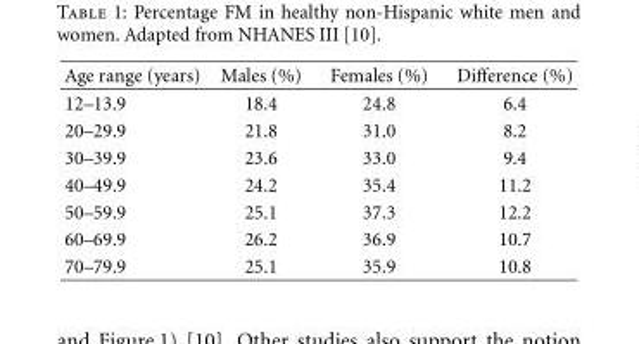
<table><thead><tr><td>Age range (years)</td><td>Males (%)</td><td>Females (%)</td><td>Difference (%)</td></tr></thead><tbody><tr><td>12–13.9</td><td>18.4</td><td>24.8</td><td>6.4</td></tr><tr><td>20–29.9</td><td>21.8</td><td>31.0</td><td>8.2</td></tr><tr><td>30–39.9</td><td>23.6</td><td>33.0</td><td>9.4</td></tr><tr><td>40–49.9</td><td>24.2</td><td>35.4</td><td>11.2</td></tr><tr><td>50–59.9</td><td>25.1</td><td>37.3</td><td>12.2</td></tr><tr><td>60–69.9</td><td>26.2</td><td>36.9</td><td>10.7</td></tr><tr><td>70–79.9</td><td>25.1</td><td>35.9</td><td>10.8</td></tr></tbody></table>